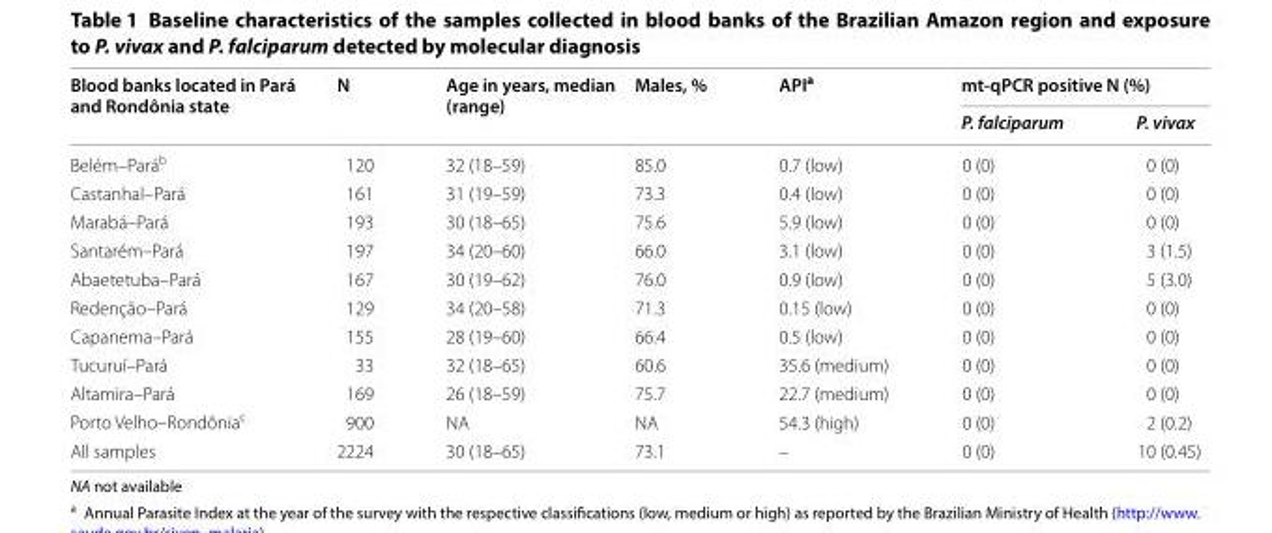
<table><thead><tr><td rowspan="2">Blood banks located in Pará and Rondônia state</td><td rowspan="2">N</td><td rowspan="2">Age in years, median (range)</td><td rowspan="2">Males, %</td><td rowspan="2">API<sup>a</sup></td><td colspan="2">mt‑qPCR positive N (%)</td></tr><tr><td>P. falciparum</td><td>P. vivax</td></tr></thead><tbody><tr><td>Belém–Pará<sup>b</sup></td><td>120</td><td>32 (18–59)</td><td>85.0</td><td>0.7 (low)</td><td>0 (0)</td><td>0 (0)</td></tr><tr><td>Castanhal–Pará</td><td>161</td><td>31 (19–59)</td><td>73.3</td><td>0.4 (low)</td><td>0 (0)</td><td>0 (0)</td></tr><tr><td>Marabá–Pará</td><td>193</td><td>30 (18–65)</td><td>75.6</td><td>5.9 (low)</td><td>0 (0)</td><td>0 (0)</td></tr><tr><td>Santarém–Pará</td><td>197</td><td>34 (20–60)</td><td>66.0</td><td>3.1 (low)</td><td>0 (0)</td><td>3 (1.5)</td></tr><tr><td>Abaetetuba–Pará</td><td>167</td><td>30 (19–62)</td><td>76.0</td><td>0.9 (low)</td><td>0 (0)</td><td>5 (3.0)</td></tr><tr><td>Redenção–Pará</td><td>129</td><td>34 (20–58)</td><td>71.3</td><td>0.15 (low)</td><td>0 (0)</td><td>0 (0)</td></tr><tr><td>Capanema–Pará</td><td>155</td><td>28 (19–60)</td><td>66.4</td><td>0.5 (low)</td><td>0 (0)</td><td>0 (0)</td></tr><tr><td>Tucuruí–Pará</td><td>33</td><td>32 (18–65)</td><td>60.6</td><td>35.6 (medium)</td><td>0 (0)</td><td>0 (0)</td></tr><tr><td>Altamira–Pará</td><td>169</td><td>26 (18–59)</td><td>75.7</td><td>22.7 (medium)</td><td>0 (0)</td><td>0 (0)</td></tr><tr><td>Porto Velho–Rondônia<sup>c</sup></td><td>900</td><td>NA</td><td>NA</td><td>54.3 (high)</td><td>0 (0)</td><td>2 (0.2)</td></tr><tr><td>All samples</td><td>2224</td><td>30 (18–65)</td><td>73.1</td><td>–</td><td>0 (0)</td><td>10 (0.45)</td></tr></tbody></table>